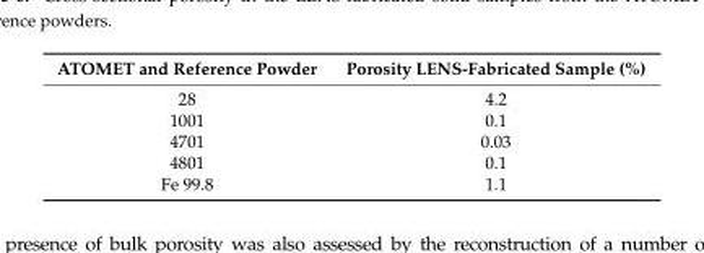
<table><thead><tr><td>ATOMET and Reference Powder</td><td>Porosity LENS-Fabricated Sample (%)</td></tr></thead><tbody><tr><td>28</td><td>4.2</td></tr><tr><td>1001</td><td>0.1</td></tr><tr><td>4701</td><td>0.03</td></tr><tr><td>4801</td><td>0.1</td></tr><tr><td>Fe 99.8</td><td>1.1</td></tr></tbody></table>